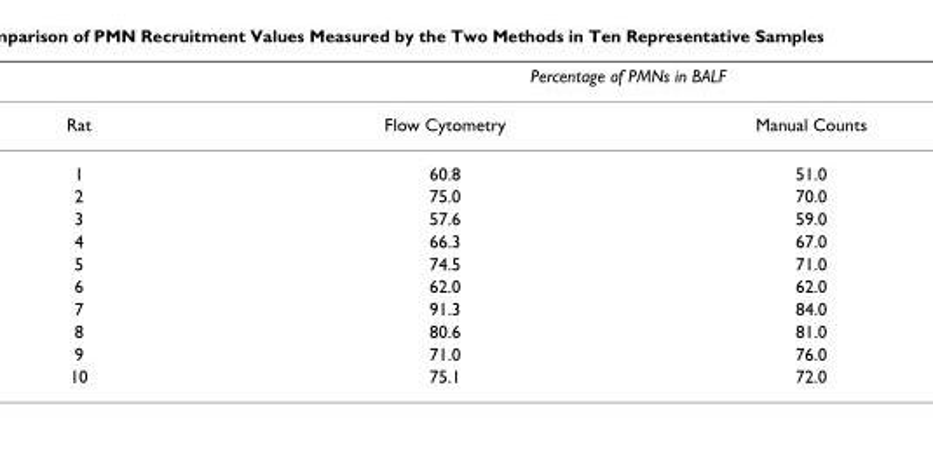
<table><thead><tr><td rowspan="2">Rat</td><td colspan="2">Percentage of PMNs in BALF</td></tr><tr><td>Flow Cytometry</td><td>Manual Counts</td></tr></thead><tbody><tr><td>1</td><td>60.8</td><td>51.0</td></tr><tr><td>2</td><td>75.0</td><td>70.0</td></tr><tr><td>3</td><td>57.6</td><td>59.0</td></tr><tr><td>4</td><td>66.3</td><td>67.0</td></tr><tr><td>5</td><td>74.5</td><td>71.0</td></tr><tr><td>6</td><td>62.0</td><td>62.0</td></tr><tr><td>7</td><td>91.3</td><td>84.0</td></tr><tr><td>8</td><td>80.6</td><td>81.0</td></tr><tr><td>9</td><td>71.0</td><td>76.0</td></tr><tr><td>10</td><td>75.1</td><td>72.0</td></tr></tbody></table>